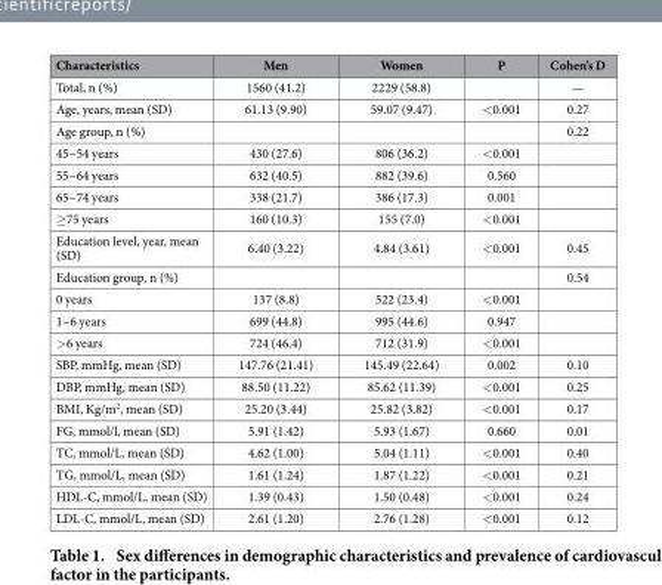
<table><thead><tr><td>Characteristics</td><td>Men</td><td>Women</td><td>P</td><td>Cohen’s D</td></tr></thead><tbody><tr><td>Total, n (%)</td><td>1560 (41.2)</td><td>2229 (58.8)</td><td></td><td>—</td></tr><tr><td>Age, years, mean (SD)</td><td>61.13 (9.90)</td><td>59.07 (9.47)</td><td>&lt; 0.001</td><td>0.27</td></tr><tr><td>Age group, n (%)</td><td></td><td></td><td></td><td>0.22</td></tr><tr><td>45~54 years</td><td>430 (27.6)</td><td>806 (36.2)</td><td>&lt; 0.001</td><td></td></tr><tr><td>55~64 years</td><td>632 (40.5)</td><td>882 (39.6)</td><td>0.560</td><td></td></tr><tr><td>65~74 years</td><td>338 (21.7)</td><td>386 (17.3)</td><td>0.001</td><td></td></tr><tr><td>≥ 75 years</td><td>160 (10.3)</td><td>155 (7.0)</td><td>&lt; 0.001</td><td></td></tr><tr><td>Education level, year, mean (SD)</td><td>6.40 (3.22)</td><td>4.84 (3.61)</td><td>&lt; 0.001</td><td>0.45</td></tr><tr><td>Education group, n (%)</td><td></td><td></td><td></td><td>0.54</td></tr><tr><td>0 years</td><td>137 (8.8)</td><td>522 (23.4)</td><td>&lt; 0.001</td><td></td></tr><tr><td>1~6 years</td><td>699 (44.8)</td><td>995 (44.6)</td><td>0.947</td><td></td></tr><tr><td>&gt; 6 years</td><td>724 (46.4)</td><td>712 (31.9)</td><td>&lt; 0.001</td><td></td></tr><tr><td>SBP, mmHg, mean (SD)</td><td>147.76 (21.41)</td><td>145.49 (22.64)</td><td>0.002</td><td>0.10</td></tr><tr><td>DBP, mmHg, mean (SD)</td><td>88.50 (11.22)</td><td>85.62 (11.39)</td><td>&lt; 0.001</td><td>0.25</td></tr><tr><td>BMI, Kg/m<sup>2</sup>, mean (SD)</td><td>25.20 (3.44)</td><td>25.82 (3.82)</td><td>&lt; 0.001</td><td>0.17</td></tr><tr><td>FG, mmol/l, mean (SD)</td><td>5.91 (1.42)</td><td>5.93 (1.67)</td><td>0.660</td><td>0.01</td></tr><tr><td>TC, mmol/L, mean (SD)</td><td>4.62 (1.00)</td><td>5.04 (1.11)</td><td>&lt; 0.001</td><td>0.40</td></tr><tr><td>TG, mmol/L, mean (SD)</td><td>1.61 (1.24)</td><td>1.87 (1.22)</td><td>&lt; 0.001</td><td>0.21</td></tr><tr><td>HDL-C, mmol/L, mean (SD)</td><td>1.39 (0.43)</td><td>1.50 (0.48)</td><td>&lt; 0.001</td><td>0.24</td></tr><tr><td>LDL-C, mmol/L, mean (SD)</td><td>2.61 (1.20)</td><td>2.76 (1.28)</td><td>&lt; 0.001</td><td>0.12</td></tr></tbody></table>